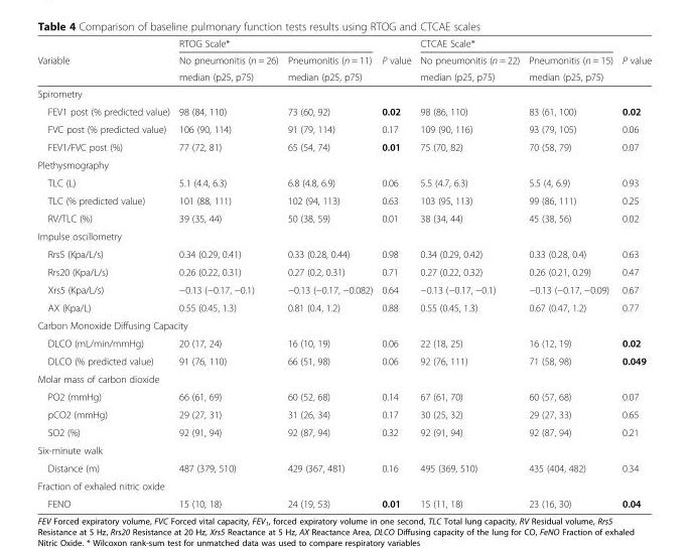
<table><thead><tr><td rowspan="3">Variable</td><td colspan="2">RTOG Scale*</td><td rowspan="3">P value</td><td colspan="2">CTCAE Scale*</td><td rowspan="3">P value</td></tr><tr><td rowspan="2">No pneumonitis (n = 26) median (p25, p75)</td><td rowspan="2">Pneumonitis (n = 11) median (p25, p75)</td><td rowspan="2">No pneumonitis (n = 22) median (p25, p75)</td><td rowspan="2">Pneumonitis (n = 15) median (p25, p75)</td></tr><tr></tr></thead><tbody><tr><td colspan="7">Spirometry</td></tr><tr><td>FEV1 post (% predicted value)</td><td>98 (84, 110)</td><td>73 (60, 92)</td><td>0.02</td><td>98 (86, 110)</td><td>83 (61, 100)</td><td>0.02</td></tr><tr><td>FVC post (% predicted value)</td><td>106 (90, 114)</td><td>91 (79, 114)</td><td>0.17</td><td>109 (90, 116)</td><td>93 (79, 105)</td><td>0.06</td></tr><tr><td>FEV1/FVC post (%)</td><td>77 (72, 81)</td><td>65 (54, 74)</td><td>0.01</td><td>75 (70, 82)</td><td>70 (58, 79)</td><td>0.07</td></tr><tr><td colspan="7">Plethysmography</td></tr><tr><td>TLC (L)</td><td>5.1 (4.4, 6.3)</td><td>6.8 (4.8, 6.9)</td><td>0.06</td><td>5.5 (4.7, 6.3)</td><td>5.5 (4, 6.9)</td><td>0.93</td></tr><tr><td>TLC (% predicted value)</td><td>101 (88, 111)</td><td>102 (94, 113)</td><td>0.63</td><td>103 (95, 113)</td><td>99 (86, 111)</td><td>0.25</td></tr><tr><td>RV/TLC (%)</td><td>39 (35, 44)</td><td>50 (38, 59)</td><td>0.01</td><td>38 (34, 44)</td><td>45 (38, 56)</td><td>0.02</td></tr><tr><td colspan="7">Impulse oscillometry</td></tr><tr><td>Rrs5 (Kpa/L/s)</td><td>0.34 (0.29, 0.41)</td><td>0.33 (0.28, 0.44)</td><td>0.98</td><td>0.34 (0.29, 0.42)</td><td>0.33 (0.28, 0.4)</td><td>0.63</td></tr><tr><td>Rrs20 (Kpa/L/s)</td><td>0.26 (0.22, 0.31)</td><td>0.27 (0.2, 0.31)</td><td>0.71</td><td>0.27 (0.22, 0.32)</td><td>0.26 (0.21, 0.29)</td><td>0.47</td></tr><tr><td>Xrs5 (Kpa/L/s)</td><td>−0.13 (−0.17, −0.1)</td><td>−0.13 (−0.17, −0.082)</td><td>0.64</td><td>−0.13 (−0.17, −0.1)</td><td>−0.13 (−0.17, −0.09)</td><td>0.67</td></tr><tr><td>AX (Kpa/L)</td><td>0.55 (0.45, 1.3)</td><td>0.81 (0.4, 1.2)</td><td>0.88</td><td>0.55 (0.45, 1.3)</td><td>0.67 (0.47, 1.2)</td><td>0.77</td></tr><tr><td colspan="7">Carbon Monoxide Diffusing Capacity</td></tr><tr><td>DLCO (mL/min/mmHg)</td><td>20 (17, 24)</td><td>16 (10, 19)</td><td>0.06</td><td>22 (18, 25)</td><td>16 (12, 19)</td><td>0.02</td></tr><tr><td>DLCO (% predicted value)</td><td>91 (76, 110)</td><td>66 (51, 98)</td><td>0.06</td><td>92 (76, 111)</td><td>71 (58, 98)</td><td>0.049</td></tr><tr><td colspan="7">Molar mass of carbon dioxide</td></tr><tr><td>PO2 (mmHg)</td><td>66 (61, 69)</td><td>60 (52, 68)</td><td>0.14</td><td>67 (61, 70)</td><td>60 (57, 68)</td><td>0.07</td></tr><tr><td>pCO2 (mmHg)</td><td>29 (27, 31)</td><td>31 (26, 34)</td><td>0.17</td><td>30 (25, 32)</td><td>29 (27, 33)</td><td>0.65</td></tr><tr><td>SO2 (%)</td><td>92 (91, 94)</td><td>92 (87, 94)</td><td>0.32</td><td>92 (91, 94)</td><td>92 (87, 94)</td><td>0.21</td></tr><tr><td colspan="7">Six-minute walk</td></tr><tr><td>Distance (m)</td><td>487 (379, 510)</td><td>429 (367, 481)</td><td>0.16</td><td>495 (369, 510)</td><td>435 (404, 482)</td><td>0.34</td></tr><tr><td colspan="7">Fraction of exhaled nitric oxide</td></tr><tr><td>FENO</td><td>15 (10, 18)</td><td>24 (19, 53)</td><td>0.01</td><td>15 (11, 18)</td><td>23 (16, 30)</td><td>0.04</td></tr></tbody></table>